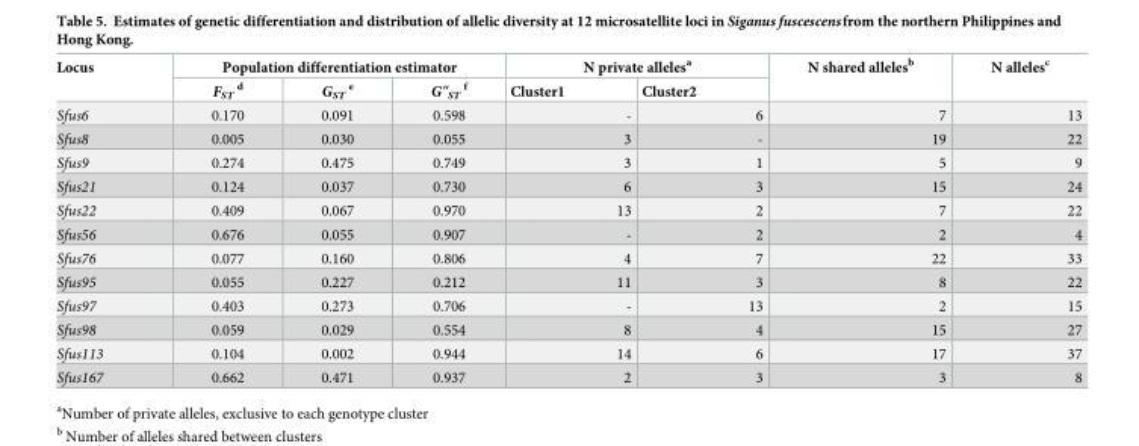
<table><thead><tr><td rowspan="2">Locus</td><td colspan="3">Population differentiation estimator</td><td colspan="2">N private alleles<sup>a</sup></td><td rowspan="2">N shared alleles<sup>b</sup></td><td rowspan="2">N alleles<sup>c</sup></td></tr><tr><td>F<sub>ST</sub> <sup>d</sup></td><td>G<sub>ST</sub> <sup>e</sup></td><td>G&quot;<sub>ST</sub> <sup>f</sup></td><td>Cluster1</td><td>Cluster2</td></tr></thead><tbody><tr><td>Sfus6</td><td>0.170</td><td>0.091</td><td>0.598</td><td>-</td><td>6</td><td>7</td><td>13</td></tr><tr><td>Sfus8</td><td>0.005</td><td>0.030</td><td>0.055</td><td>3</td><td>-</td><td>19</td><td>22</td></tr><tr><td>Sfus9</td><td>0.274</td><td>0.475</td><td>0.749</td><td>3</td><td>1</td><td>5</td><td>9</td></tr><tr><td>Sfus21</td><td>0.124</td><td>0.037</td><td>0.730</td><td>6</td><td>3</td><td>15</td><td>24</td></tr><tr><td>Sfus22</td><td>0.409</td><td>0.067</td><td>0.970</td><td>13</td><td>2</td><td>7</td><td>22</td></tr><tr><td>Sfus56</td><td>0.676</td><td>0.055</td><td>0.907</td><td>-</td><td>2</td><td>2</td><td>4</td></tr><tr><td>Sfus76</td><td>0.077</td><td>0.160</td><td>0.806</td><td>4</td><td>7</td><td>22</td><td>33</td></tr><tr><td>Sfus95</td><td>0.055</td><td>0.227</td><td>0.212</td><td>11</td><td>3</td><td>8</td><td>22</td></tr><tr><td>Sfus97</td><td>0.403</td><td>0.273</td><td>0.706</td><td>-</td><td>13</td><td>2</td><td>15</td></tr><tr><td>Sfus98</td><td>0.059</td><td>0.029</td><td>0.554</td><td>8</td><td>4</td><td>15</td><td>27</td></tr><tr><td>Sfus113</td><td>0.104</td><td>0.002</td><td>0.944</td><td>14</td><td>6</td><td>17</td><td>37</td></tr><tr><td>Sfus167</td><td>0.662</td><td>0.471</td><td>0.937</td><td>2</td><td>3</td><td>3</td><td>8</td></tr></tbody></table>